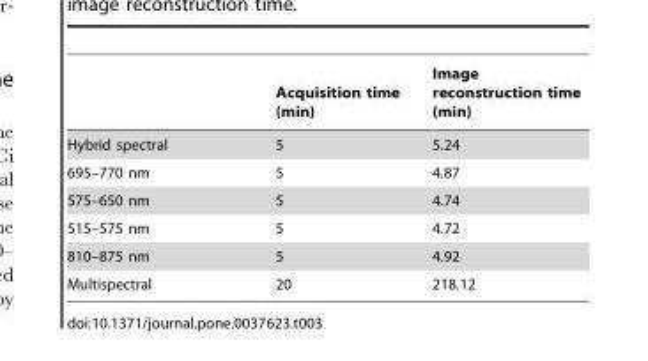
<table><thead><tr><td></td><td>Acquisition time (min)</td><td>Image reconstruction time (min)</td></tr></thead><tbody><tr><td>Hybrid spectral</td><td>5</td><td>5.24</td></tr><tr><td>695–770 nm</td><td>5</td><td>4.87</td></tr><tr><td>575–650 nm</td><td>5</td><td>4.74</td></tr><tr><td>515–575 nm</td><td>5</td><td>4.72</td></tr><tr><td>810–875 nm</td><td>5</td><td>4.92</td></tr><tr><td>Multispectral</td><td>20</td><td>218.12</td></tr></tbody></table>